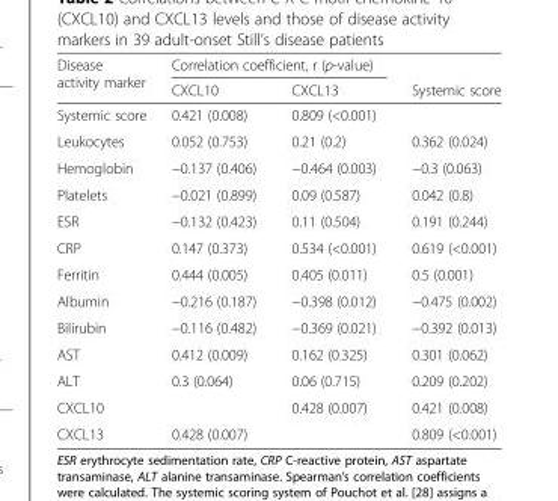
<table><thead><tr><td rowspan="2">Disease activity marker</td><td colspan="2">Correlation coefficient, r (p-value)</td><td rowspan="2">Systemic score</td></tr><tr><td>CXCL10</td><td>CXCL13</td></tr></thead><tbody><tr><td>Systemic score</td><td>0.421 (0.008)</td><td>0.809 (&lt;0.001)</td><td></td></tr><tr><td>Leukocytes</td><td>0.052 (0.753)</td><td>0.21 (0.2)</td><td>0.362 (0.024)</td></tr><tr><td>Hemoglobin</td><td>−0.137 (0.406)</td><td>−0.464 (0.003)</td><td>−0.3 (0.063)</td></tr><tr><td>Platelets</td><td>−0.021 (0.899)</td><td>0.09 (0.587)</td><td>0.042 (0.8)</td></tr><tr><td>ESR</td><td>−0.132 (0.423)</td><td>0.11 (0.504)</td><td>0.191 (0.244)</td></tr><tr><td>CRP</td><td>0.147 (0.373)</td><td>0.534 (&lt;0.001)</td><td>0.619 (&lt;0.001)</td></tr><tr><td>Ferritin</td><td>0.444 (0.005)</td><td>0.405 (0.011)</td><td>0.5 (0.001)</td></tr><tr><td>Albumin</td><td>−0.216 (0.187)</td><td>−0.398 (0.012)</td><td>−0.475 (0.002)</td></tr><tr><td>Bilirubin</td><td>−0.116 (0.482)</td><td>−0.369 (0.021)</td><td>−0.392 (0.013)</td></tr><tr><td>AST</td><td>0.412 (0.009)</td><td>0.162 (0.325)</td><td>0.301 (0.062)</td></tr><tr><td>ALT</td><td>0.3 (0.064)</td><td>0.06 (0.715)</td><td>0.209 (0.202)</td></tr><tr><td>CXCL10</td><td></td><td>0.428 (0.007)</td><td>0.421 (0.008)</td></tr><tr><td>CXCL13</td><td>0.428 (0.007)</td><td></td><td>0.809 (&lt;0.001)</td></tr></tbody></table>